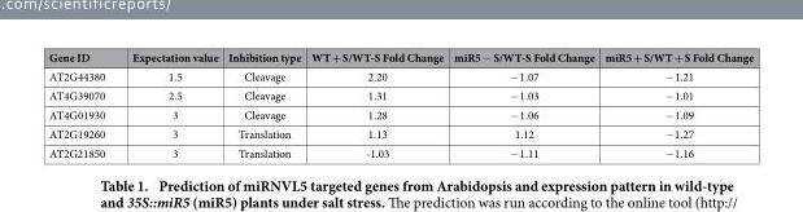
<table><thead><tr><td>Gene ID</td><td>Expectation value</td><td>Inhibition type</td><td>WT + S/WT-S Fold Change</td><td>miR5 − S/WT-S Fold Change</td><td>miR5 + S/WT + S Fold Change</td></tr></thead><tbody><tr><td>AT2G44380</td><td>1.5</td><td>Cleavage</td><td>2.20</td><td>− 1.07</td><td>− 1.21</td></tr><tr><td>AT4G39070</td><td>2.5</td><td>Cleavage</td><td>1.31</td><td>− 1.03</td><td>− 1.01</td></tr><tr><td>AT4G01930</td><td>3</td><td>Cleavage</td><td>1.28</td><td>− 1.06</td><td>− 1.09</td></tr><tr><td>AT2G19260</td><td>3</td><td>Translation</td><td>1.13</td><td>1.12</td><td>− 1.27</td></tr><tr><td>AT2G21850</td><td>3</td><td>Translation</td><td>-1.03</td><td>− 1.11</td><td>− 1.16</td></tr></tbody></table>